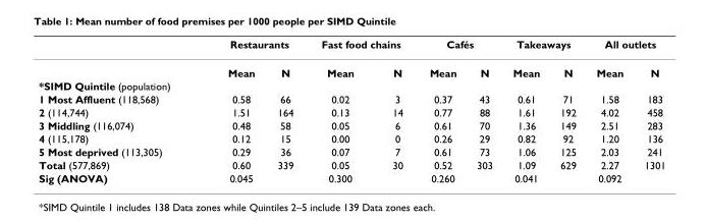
<table><thead><tr><td rowspan="2"></td><td colspan="2">Restaurants</td><td colspan="2">Fast food chains</td><td colspan="2">Cafés</td><td colspan="2">Takeaways</td><td colspan="2">All outlets</td></tr><tr><td>Mean</td><td>N</td><td>Mean</td><td>N</td><td>Mean</td><td>N</td><td>Mean</td><td>N</td><td>Mean</td><td>N</td></tr></thead><tbody><tr><td colspan="11">*SIMD Quintile (population)</td></tr><tr><td>1 Most Affluent (118,568)</td><td>0.58</td><td>66</td><td>0.02</td><td>3</td><td>0.37</td><td>43</td><td>0.61</td><td>71</td><td>1.58</td><td>183</td></tr><tr><td>2 (114,744)</td><td>1.51</td><td>164</td><td>0.13</td><td>14</td><td>0.77</td><td>88</td><td>1.61</td><td>192</td><td>4.02</td><td>458</td></tr><tr><td>3 Middling (116,074)</td><td>0.48</td><td>58</td><td>0.05</td><td>6</td><td>0.61</td><td>70</td><td>1.36</td><td>149</td><td>2.51</td><td>283</td></tr><tr><td>4 (115,178)</td><td>0.12</td><td>15</td><td>0.00</td><td>0</td><td>0.26</td><td>29</td><td>0.82</td><td>92</td><td>1.20</td><td>136</td></tr><tr><td>5 Most deprived (113,305)</td><td>0.29</td><td>36</td><td>0.07</td><td>7</td><td>0.61</td><td>73</td><td>1.06</td><td>125</td><td>2.03</td><td>241</td></tr><tr><td>Total (577,869)</td><td>0.60</td><td>339</td><td>0.05</td><td>30</td><td>0.52</td><td>303</td><td>1.09</td><td>629</td><td>2.27</td><td>1301</td></tr><tr><td>Sig (ANOVA)</td><td>0.045</td><td></td><td>0.300</td><td></td><td>0.260</td><td></td><td>0.041</td><td></td><td>0.092</td><td></td></tr></tbody></table>